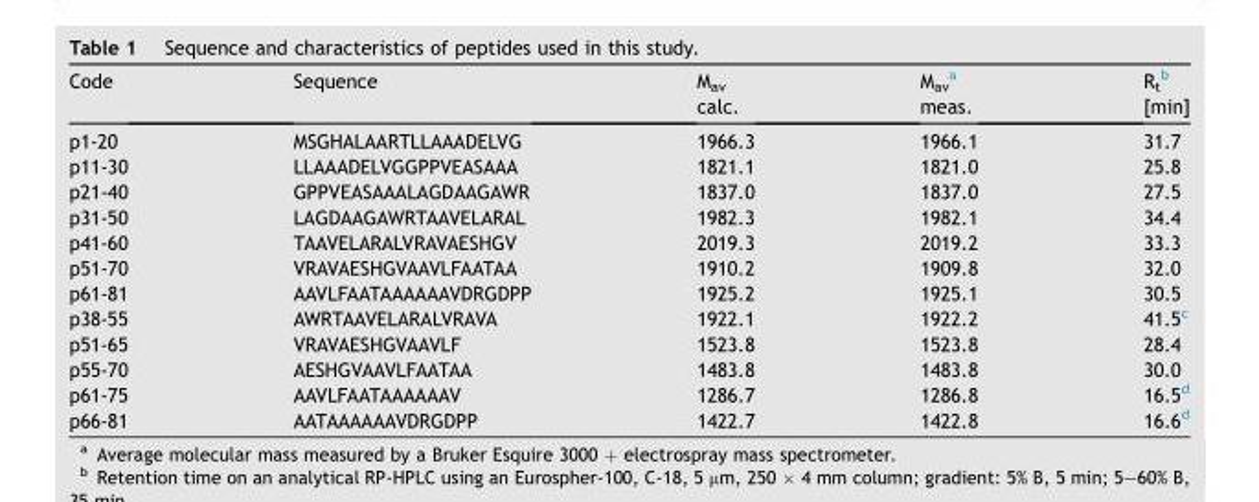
<table><thead><tr><td>Code</td><td>Sequence</td><td>M<sub>av</sub> calc.</td><td>M<sub>av</sub> <sup>a</sup> meas.</td><td>R<sub>t</sub> <sup>b</sup> [min]</td></tr></thead><tbody><tr><td>p1-20</td><td>MSGHALAARTLLAAADELVG</td><td>1966.3</td><td>1966.1</td><td>31.7</td></tr><tr><td>p11-30</td><td>LLAAADELVGGPPVEASAAA</td><td>1821.1</td><td>1821.0</td><td>25.8</td></tr><tr><td>p21-40</td><td>GPPVEASAAALAGDAAGAWR</td><td>1837.0</td><td>1837.0</td><td>27.5</td></tr><tr><td>p31-50</td><td>LAGDAAGAWRTAAVELARAL</td><td>1982.3</td><td>1982.1</td><td>34.4</td></tr><tr><td>p41-60</td><td>TAAVELARALVRAVAESHGV</td><td>2019.3</td><td>2019.2</td><td>33.3</td></tr><tr><td>p51-70</td><td>VRAVAESHGVAAVLFAATAA</td><td>1910.2</td><td>1909.8</td><td>32.0</td></tr><tr><td>p61-81</td><td>AAVLFAATAAAAAAVDRGDPP</td><td>1925.2</td><td>1925.1</td><td>30.5</td></tr><tr><td>p38-55</td><td>AWRTAAVELARALVRAVA</td><td>1922.1</td><td>1922.2</td><td>41.5<sup>c</sup></td></tr><tr><td>p51-65</td><td>VRAVAESHGVAAVLF</td><td>1523.8</td><td>1523.8</td><td>28.4</td></tr><tr><td>p55-70</td><td>AESHGVAAVLFAATAA</td><td>1483.8</td><td>1483.8</td><td>30.0</td></tr><tr><td>p61-75</td><td>AAVLFAATAAAAAAV</td><td>1286.7</td><td>1286.8</td><td>16.5<sup>d</sup></td></tr><tr><td>p66-81</td><td>AATAAAAAAVDRGDPP</td><td>1422.7</td><td>1422.8</td><td>16.6<sup>d</sup></td></tr></tbody></table>